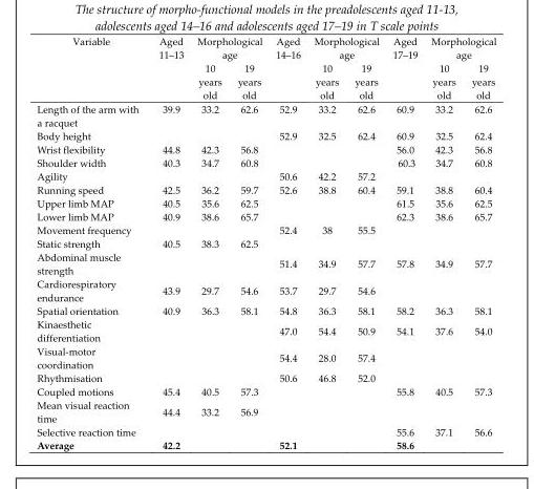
<table><thead><tr><td rowspan="2">Variable</td><td rowspan="2">Aged 11–13</td><td colspan="2">Morphological age</td><td rowspan="2">Aged 14–16</td><td colspan="2">Morphological age</td><td rowspan="2">Aged 17–19</td><td colspan="2">Morphological age</td></tr><tr><td>10 years old</td><td>19 years old</td><td>10 years old</td><td>19 years old</td><td>10 years old</td><td>19 years old</td></tr></thead><tbody><tr><td>Length of the arm with a racquet</td><td>39.9</td><td>33.2</td><td>62.6</td><td>52.9</td><td>33.2</td><td>62.6</td><td>60.9</td><td>33.2</td><td>62.6</td></tr><tr><td>Body height</td><td></td><td></td><td></td><td>52.9</td><td>32.5</td><td>62.4</td><td>60.9</td><td>32.5</td><td>62.4</td></tr><tr><td>Wrist flexibility</td><td>44.8</td><td>42.3</td><td>56.8</td><td></td><td></td><td></td><td>56.0</td><td>42.3</td><td>56.8</td></tr><tr><td>Shoulder width</td><td>40.3</td><td>34.7</td><td>60.8</td><td></td><td></td><td></td><td>60.3</td><td>34.7</td><td>60.8</td></tr><tr><td>Agility</td><td></td><td></td><td></td><td>50.6</td><td>42.2</td><td>57.2</td><td></td><td></td><td></td></tr><tr><td>Running speed</td><td>42.5</td><td>36.2</td><td>59.7</td><td>52.6</td><td>38.8</td><td>60.4</td><td>59.1</td><td>38.8</td><td>60.4</td></tr><tr><td>Upper limb MAP</td><td>40.5</td><td>35.6</td><td>62.5</td><td></td><td></td><td></td><td>61.5</td><td>35.6</td><td>62.5</td></tr><tr><td>Lower limb MAP</td><td>40.9</td><td>38.6</td><td>65.7</td><td></td><td></td><td></td><td>62.3</td><td>38.6</td><td>65.7</td></tr><tr><td>Movement frequency</td><td></td><td></td><td></td><td>52.4</td><td>38</td><td>55.5</td><td></td><td></td><td></td></tr><tr><td>Static strength</td><td>40.5</td><td>38.3</td><td>62.5</td><td></td><td></td><td></td><td></td><td></td><td></td></tr><tr><td>Abdominal muscle strength</td><td></td><td></td><td></td><td>51.4</td><td>34.9</td><td>57.7</td><td>57.8</td><td>34.9</td><td>57.7</td></tr><tr><td>Cardiorespiratory endurance</td><td>43.9</td><td>29.7</td><td>54.6</td><td>53.7</td><td>29.7</td><td>54.6</td><td></td><td></td><td></td></tr><tr><td>Spatial orientation</td><td>40.9</td><td>36.3</td><td>58.1</td><td>54.8</td><td>36.3</td><td>58.1</td><td>58.2</td><td>36.3</td><td>58.1</td></tr><tr><td>Kinaesthetic differentiation</td><td></td><td></td><td></td><td>47.0</td><td>54.4</td><td>50.9</td><td>54.1</td><td>37.6</td><td>54.0</td></tr><tr><td>Visual-motor coordination</td><td></td><td></td><td></td><td>54.4</td><td>28.0</td><td>57.4</td><td></td><td></td><td></td></tr><tr><td>Rhythmisation</td><td></td><td></td><td></td><td>50.6</td><td>46.8</td><td>52.0</td><td></td><td></td><td></td></tr><tr><td>Coupled motions</td><td>45.4</td><td>40.5</td><td>57.3</td><td></td><td></td><td></td><td>55.8</td><td>40.5</td><td>57.3</td></tr><tr><td>Mean visual reaction time</td><td>44.4</td><td>33.2</td><td>56.9</td><td></td><td></td><td></td><td></td><td></td><td></td></tr><tr><td>Selective reaction time</td><td></td><td></td><td></td><td></td><td></td><td></td><td>55.6</td><td>37.1</td><td>56.6</td></tr><tr><td>Average</td><td>42.2</td><td></td><td></td><td>52.1</td><td></td><td></td><td>58.6</td><td></td><td></td></tr></tbody></table>